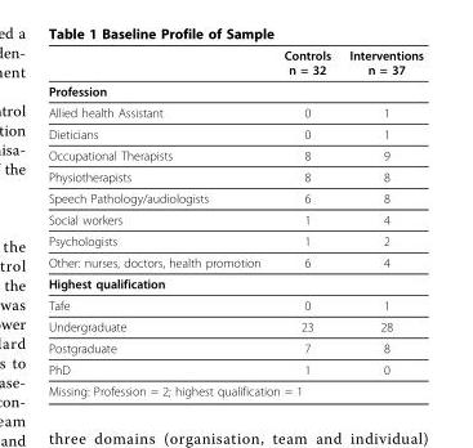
<table><thead><tr><td></td><td>Controls n = 32</td><td>Interventions n = 37</td></tr></thead><tbody><tr><td colspan="3">Profession</td></tr><tr><td>Allied health Assistant</td><td>0</td><td>1</td></tr><tr><td>Dieticians</td><td>0</td><td>1</td></tr><tr><td>Occupational Therapists</td><td>8</td><td>9</td></tr><tr><td>Physiotherapists</td><td>8</td><td>8</td></tr><tr><td>Speech Pathology/audiologists</td><td>6</td><td>8</td></tr><tr><td>Social workers</td><td>1</td><td>4</td></tr><tr><td>Psychologists</td><td>1</td><td>2</td></tr><tr><td>Other: nurses, doctors, health promotion</td><td>6</td><td>4</td></tr><tr><td colspan="3">Highest qualification</td></tr><tr><td>Tafe</td><td>0</td><td>1</td></tr><tr><td>Undergraduate</td><td>23</td><td>28</td></tr><tr><td>Postgraduate</td><td>7</td><td>8</td></tr><tr><td>PhD</td><td>1</td><td>0</td></tr><tr><td colspan="3">Missing: Profession = 2; highest qualification = 1</td></tr></tbody></table>